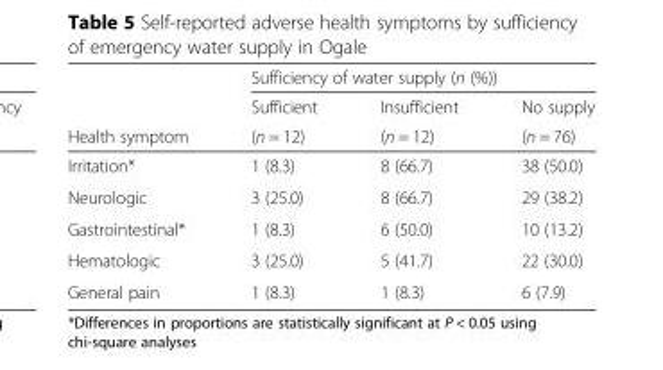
<table><thead><tr><td rowspan="3">Health symptom</td><td colspan="3">Sufficiency of water supply (n (%))</td></tr><tr><td rowspan="2">Sufficient (n = 12)</td><td rowspan="2">Insufficient (n = 12)</td><td rowspan="2">No supply (n = 76)</td></tr><tr></tr></thead><tbody><tr><td>Irritation*</td><td>1 (8.3)</td><td>8 (66.7)</td><td>38 (50.0)</td></tr><tr><td>Neurologic</td><td>3 (25.0)</td><td>8 (66.7)</td><td>29 (38.2)</td></tr><tr><td>Gastrointestinal*</td><td>1 (8.3)</td><td>6 (50.0)</td><td>10 (13.2)</td></tr><tr><td>Hematologic</td><td>3 (25.0)</td><td>5 (41.7)</td><td>22 (30.0)</td></tr><tr><td>General pain</td><td>1 (8.3)</td><td>1 (8.3)</td><td>6 (7.9)</td></tr></tbody></table>